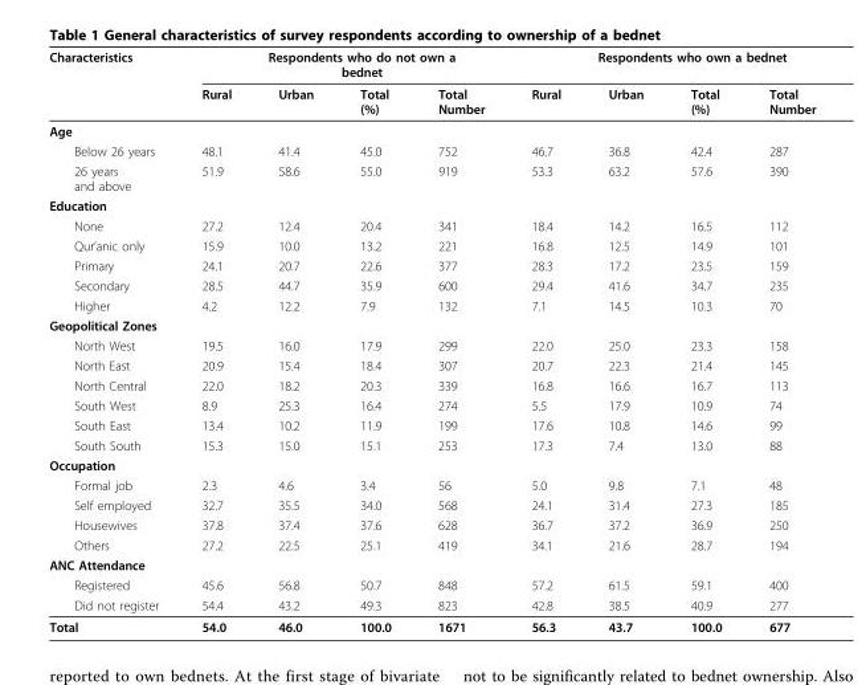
<table><thead><tr><td rowspan="2">Characteristics</td><td colspan="4">Respondents who do not own a bednet</td><td colspan="4">Respondents who own a bednet</td></tr><tr><td>Rural</td><td>Urban</td><td>Total (%)</td><td>Total Number</td><td>Rural</td><td>Urban</td><td>Total (%)</td><td>Total Number</td></tr></thead><tbody><tr><td colspan="9">Age</td></tr><tr><td>Below 26 years</td><td>48.1</td><td>41.4</td><td>45.0</td><td>752</td><td>46.7</td><td>36.8</td><td>42.4</td><td>287</td></tr><tr><td>26 years and above</td><td>51.9</td><td>58.6</td><td>55.0</td><td>919</td><td>53.3</td><td>63.2</td><td>57.6</td><td>390</td></tr><tr><td colspan="9">Education</td></tr><tr><td>None</td><td>27.2</td><td>12.4</td><td>20.4</td><td>341</td><td>18.4</td><td>14.2</td><td>16.5</td><td>112</td></tr><tr><td>Qur’anic only</td><td>15.9</td><td>10.0</td><td>13.2</td><td>221</td><td>16.8</td><td>12.5</td><td>14.9</td><td>101</td></tr><tr><td>Primary</td><td>24.1</td><td>20.7</td><td>22.6</td><td>377</td><td>28.3</td><td>17.2</td><td>23.5</td><td>159</td></tr><tr><td>Secondary</td><td>28.5</td><td>44.7</td><td>35.9</td><td>600</td><td>29.4</td><td>41.6</td><td>34.7</td><td>235</td></tr><tr><td>Higher</td><td>4.2</td><td>12.2</td><td>7.9</td><td>132</td><td>7.1</td><td>14.5</td><td>10.3</td><td>70</td></tr><tr><td colspan="9">Geopolitical Zones</td></tr><tr><td>North West</td><td>19.5</td><td>16.0</td><td>17.9</td><td>299</td><td>22.0</td><td>25.0</td><td>23.3</td><td>158</td></tr><tr><td>North East</td><td>20.9</td><td>15.4</td><td>18.4</td><td>307</td><td>20.7</td><td>22.3</td><td>21.4</td><td>145</td></tr><tr><td>North Central</td><td>22.0</td><td>18.2</td><td>20.3</td><td>339</td><td>16.8</td><td>16.6</td><td>16.7</td><td>113</td></tr><tr><td>South West</td><td>8.9</td><td>25.3</td><td>16.4</td><td>274</td><td>5.5</td><td>17.9</td><td>10.9</td><td>74</td></tr><tr><td>South East</td><td>13.4</td><td>10.2</td><td>11.9</td><td>199</td><td>17.6</td><td>10.8</td><td>14.6</td><td>99</td></tr><tr><td>South South</td><td>15.3</td><td>15.0</td><td>15.1</td><td>253</td><td>17.3</td><td>7.4</td><td>13.0</td><td>88</td></tr><tr><td colspan="9">Occupation</td></tr><tr><td>Formal job</td><td>2.3</td><td>4.6</td><td>3.4</td><td>56</td><td>5.0</td><td>9.8</td><td>7.1</td><td>48</td></tr><tr><td>Self employed</td><td>32.7</td><td>35.5</td><td>34.0</td><td>568</td><td>24.1</td><td>31.4</td><td>27.3</td><td>185</td></tr><tr><td>Housewives</td><td>37.8</td><td>37.4</td><td>37.6</td><td>628</td><td>36.7</td><td>37.2</td><td>36.9</td><td>250</td></tr><tr><td>Others</td><td>27.2</td><td>22.5</td><td>25.1</td><td>419</td><td>34.1</td><td>21.6</td><td>28.7</td><td>194</td></tr><tr><td colspan="9">ANC Attendance</td></tr><tr><td>Registered</td><td>45.6</td><td>56.8</td><td>50.7</td><td>848</td><td>57.2</td><td>61.5</td><td>59.1</td><td>400</td></tr><tr><td>Did not register</td><td>54.4</td><td>43.2</td><td>49.3</td><td>823</td><td>42.8</td><td>38.5</td><td>40.9</td><td>277</td></tr><tr><td>Total</td><td>54.0</td><td>46.0</td><td>100.0</td><td>1671</td><td>56.3</td><td>43.7</td><td>100.0</td><td>677</td></tr></tbody></table>